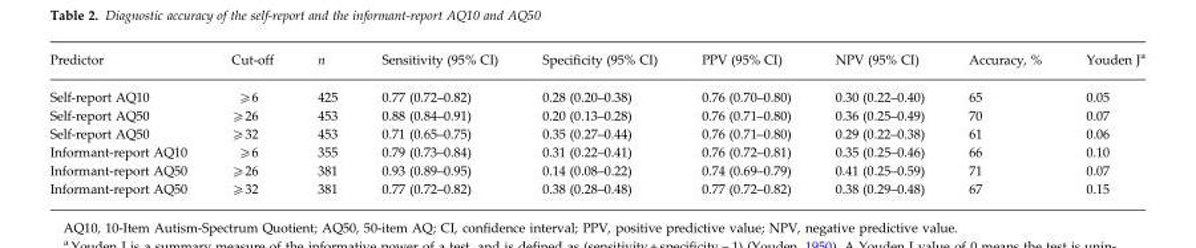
<table><thead><tr><td>Predictor</td><td>Cut-off</td><td>n</td><td>Sensitivity (95% CI)</td><td>Specificity (95% CI)</td><td>PPV (95% CI)</td><td>NPV (95% CI)</td><td>Accuracy, %</td><td>Youden J<sup>a</sup></td></tr></thead><tbody><tr><td>Self-report AQ10</td><td>⩾6</td><td>425</td><td>0.77 (0.72–0.82)</td><td>0.28 (0.20–0.38)</td><td>0.76 (0.70–0.80)</td><td>0.30 (0.22–0.40)</td><td>65</td><td>0.05</td></tr><tr><td>Self-report AQ50</td><td>⩾26</td><td>453</td><td>0.88 (0.84–0.91)</td><td>0.20 (0.13–0.28)</td><td>0.76 (0.71–0.80)</td><td>0.36 (0.25–0.49)</td><td>70</td><td>0.07</td></tr><tr><td>Self-report AQ50</td><td>⩾32</td><td>453</td><td>0.71 (0.65–0.75)</td><td>0.35 (0.27–0.44)</td><td>0.76 (0.71–0.80)</td><td>0.29 (0.22–0.38)</td><td>61</td><td>0.06</td></tr><tr><td>Informant-report AQ10</td><td>⩾6</td><td>355</td><td>0.79 (0.73–0.84)</td><td>0.31 (0.22–0.41)</td><td>0.76 (0.72–0.81)</td><td>0.35 (0.25–0.46)</td><td>66</td><td>0.10</td></tr><tr><td>Informant-report AQ50</td><td>⩾26</td><td>381</td><td>0.93 (0.89–0.95)</td><td>0.14 (0.08–0.22)</td><td>0.74 (0.69–0.79)</td><td>0.41 (0.25–0.59)</td><td>71</td><td>0.07</td></tr><tr><td>Informant-report AQ50</td><td>⩾32</td><td>381</td><td>0.77 (0.72–0.82)</td><td>0.38 (0.28–0.48)</td><td>0.77 (0.72–0.82)</td><td>0.38 (0.29–0.48)</td><td>67</td><td>0.15</td></tr></tbody></table>